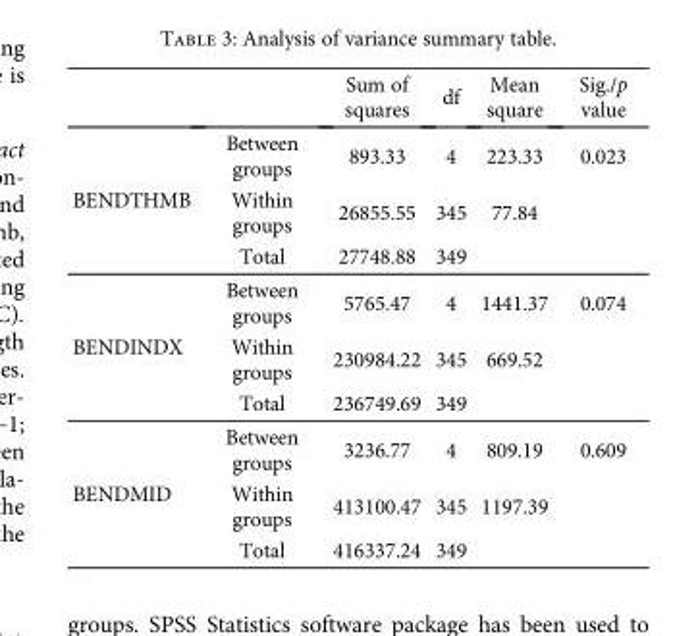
<table><thead><tr><td></td><td></td><td>Sum of squares</td><td>df</td><td>Mean square</td><td>Sig./p value</td></tr></thead><tbody><tr><td rowspan="3">BENDTHMB</td><td>Between groups</td><td>893.33</td><td>4</td><td>223.33</td><td>0.023</td></tr><tr><td>Within groups</td><td>26855.55</td><td>345</td><td>77.84</td><td></td></tr><tr><td>Total</td><td>27748.88</td><td>349</td><td></td><td></td></tr><tr><td rowspan="3">BENDINDX</td><td>Between groups</td><td>5765.47</td><td>4</td><td>1441.37</td><td>0.074</td></tr><tr><td>Within groups</td><td>230984.22</td><td>345</td><td>669.52</td><td></td></tr><tr><td>Total</td><td>236749.69</td><td>349</td><td></td><td></td></tr><tr><td rowspan="3">BENDMID</td><td>Between groups</td><td>3236.77</td><td>4</td><td>809.19</td><td>0.609</td></tr><tr><td>Within groups</td><td>413100.47</td><td>345</td><td>1197.39</td><td></td></tr><tr><td>Total</td><td>416337.24</td><td>349</td><td></td><td></td></tr></tbody></table>